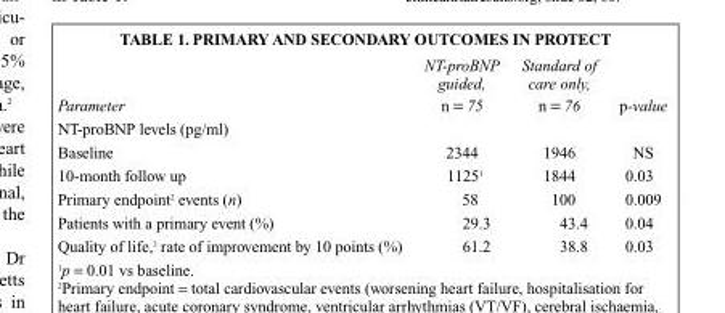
<table><tbody><tr><td>Parameter</td><td>NT-proBNP guided, n = 75</td><td>Standard of care only, n = 76</td><td>p-value</td></tr><tr><td colspan="4">NT-proBNP levels (pg/ml)</td></tr><tr><td>Baseline</td><td>2344</td><td>1946</td><td>NS</td></tr><tr><td>10-month follow up</td><td>1125<sup>1</sup></td><td>1844</td><td>0.03</td></tr><tr><td>Primary endpoint<sup>2</sup> events (n)</td><td>58</td><td>100</td><td>0.009</td></tr><tr><td>Patients with a primary event (%)</td><td>29.3</td><td>43.4</td><td>0.04</td></tr><tr><td>Quality of life,<sup>3</sup> rate of improvement by 10 points (%)</td><td>61.2</td><td>38.8</td><td>0.03</td></tr></tbody></table>